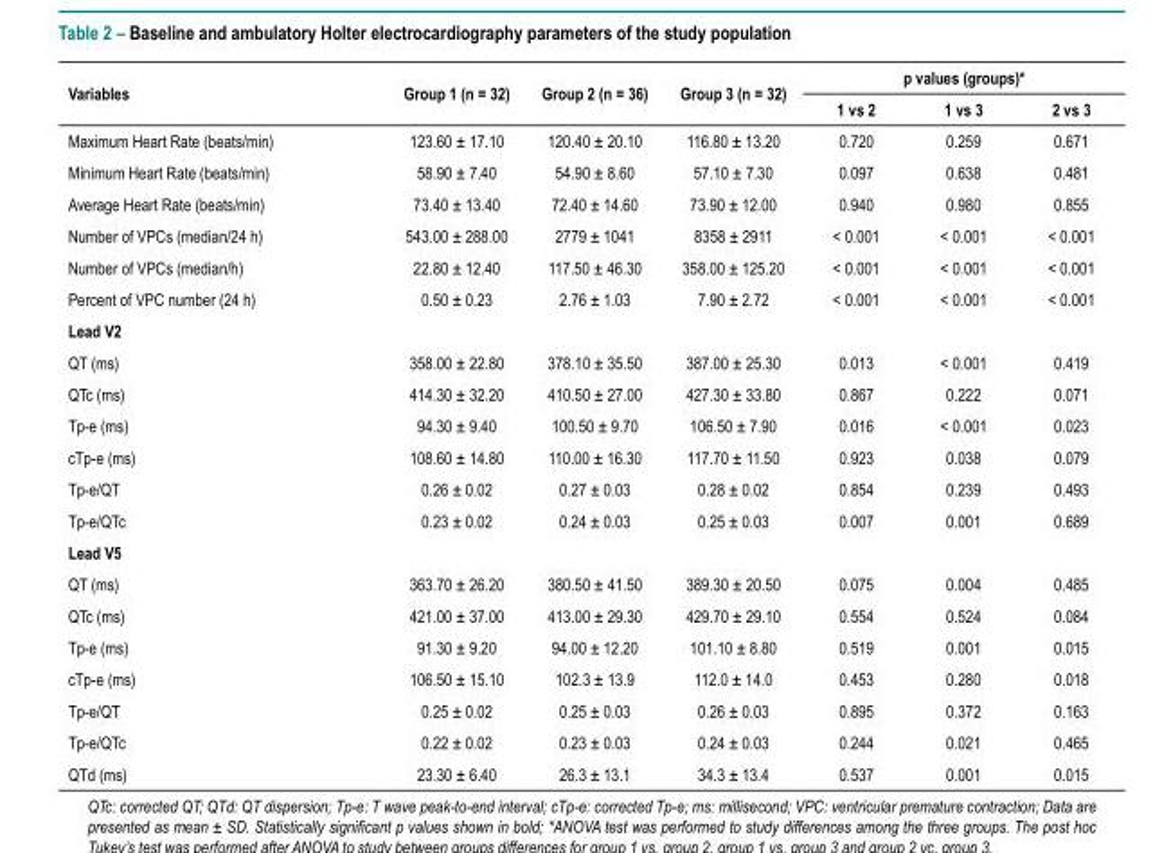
<table><thead><tr><td rowspan="2">Variables</td><td rowspan="2">Group 1 (n = 32)</td><td rowspan="2">Group 2 (n = 36)</td><td rowspan="2">Group 3 (n = 32)</td><td colspan="3">p values (groups)*</td></tr><tr><td>1 vs 2</td><td>1 vs 3</td><td>2 vs 3</td></tr></thead><tbody><tr><td>Maximum Heart Rate (beats/min)</td><td>123.60 ± 17.10</td><td>120.40 ± 20.10</td><td>116.80 ± 13.20</td><td>0.720</td><td>0.259</td><td>0.671</td></tr><tr><td>Minimum Heart Rate (beats/min)</td><td>58.90 ± 7.40</td><td>54.90 ± 8.60</td><td>57.10 ± 7.30</td><td>0.097</td><td>0.638</td><td>0.481</td></tr><tr><td>Average Heart Rate (beats/min)</td><td>73.40 ± 13.40</td><td>72.40 ± 14.60</td><td>73.90 ± 12.00</td><td>0.940</td><td>0.980</td><td>0.855</td></tr><tr><td>Number of VPCs (median/24 h)</td><td>543.00 ± 288.00</td><td>2779 ± 1041</td><td>8358 ± 2911</td><td>&lt; 0.001</td><td>&lt; 0.001</td><td>&lt; 0.001</td></tr><tr><td>Number of VPCs (median/h)</td><td>22.80 ± 12.40</td><td>117.50 ± 46.30</td><td>358.00 ± 125.20</td><td>&lt; 0.001</td><td>&lt; 0.001</td><td>&lt; 0.001</td></tr><tr><td>Percent of VPC number (24 h)</td><td>0.50 ± 0.23</td><td>2.76 ± 1.03</td><td>7.90 ± 2.72</td><td>&lt; 0.001</td><td>&lt; 0.001</td><td>&lt; 0.001</td></tr><tr><td colspan="7">Lead V2</td></tr><tr><td>QT (ms)</td><td>358.00 ± 22.80</td><td>378.10 ± 35.50</td><td>387.00 ± 25.30</td><td>0.013</td><td>&lt; 0.001</td><td>0.419</td></tr><tr><td>QTc (ms)</td><td>414.30 ± 32.20</td><td>410.50 ± 27.00</td><td>427.30 ± 33.80</td><td>0.867</td><td>0.222</td><td>0.071</td></tr><tr><td>Tp-e (ms)</td><td>94.30 ± 9.40</td><td>100.50 ± 9.70</td><td>106.50 ± 7.90</td><td>0.016</td><td>&lt; 0.001</td><td>0.023</td></tr><tr><td>cTp-e (ms)</td><td>108.60 ± 14.80</td><td>110.00 ± 16.30</td><td>117.70 ± 11.50</td><td>0.923</td><td>0.038</td><td>0.079</td></tr><tr><td>Tp-e/QT</td><td>0.26 ± 0.02</td><td>0.27 ± 0.03</td><td>0.28 ± 0.02</td><td>0.854</td><td>0.239</td><td>0.493</td></tr><tr><td>Tp-e/QTc</td><td>0.23 ± 0.02</td><td>0.24 ± 0.03</td><td>0.25 ± 0.03</td><td>0.007</td><td>0.001</td><td>0.689</td></tr><tr><td colspan="7">Lead V5</td></tr><tr><td>QT (ms)</td><td>363.70 ± 26.20</td><td>380.50 ± 41.50</td><td>389.30 ± 20.50</td><td>0.075</td><td>0.004</td><td>0.485</td></tr><tr><td>QTc (ms)</td><td>421.00 ± 37.00</td><td>413.00 ± 29.30</td><td>429.70 ± 29.10</td><td>0.554</td><td>0.524</td><td>0.084</td></tr><tr><td>Tp-e (ms)</td><td>91.30 ± 9.20</td><td>94.00 ± 12.20</td><td>101.10 ± 8.80</td><td>0.519</td><td>0.001</td><td>0.015</td></tr><tr><td>cTp-e (ms)</td><td>106.50 ± 15.10</td><td>102.3 ± 13.9</td><td>112.0 ± 14.0</td><td>0.453</td><td>0.280</td><td>0.018</td></tr><tr><td>Tp-e/QT</td><td>0.25 ± 0.02</td><td>0.25 ± 0.03</td><td>0.26 ± 0.03</td><td>0.895</td><td>0.372</td><td>0.163</td></tr><tr><td>Tp-e/QTc</td><td>0.22 ± 0.02</td><td>0.23 ± 0.03</td><td>0.24 ± 0.03</td><td>0.244</td><td>0.021</td><td>0.465</td></tr><tr><td>QTd (ms)</td><td>23.30 ± 6.40</td><td>26.3 ± 13.1</td><td>34.3 ± 13.4</td><td>0.537</td><td>0.001</td><td>0.015</td></tr></tbody></table>